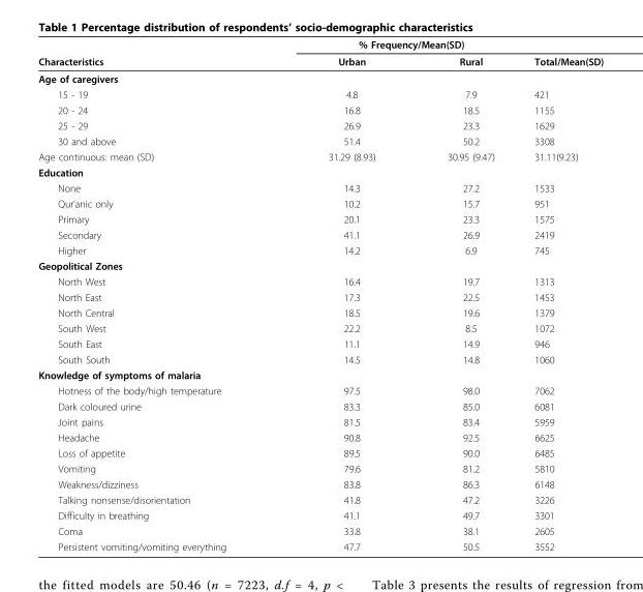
<table><thead><tr><td rowspan="2">Characteristics</td><td colspan="2">% Frequency/Mean(SD)</td><td rowspan="2">Total/Mean(SD)</td></tr><tr><td>Urban</td><td>Rural</td></tr></thead><tbody><tr><td colspan="4">Age of caregivers</td></tr><tr><td>15 - 19</td><td>4.8</td><td>7.9</td><td>421</td></tr><tr><td>20 - 24</td><td>16.8</td><td>18.5</td><td>1155</td></tr><tr><td>25 - 29</td><td>26.9</td><td>23.3</td><td>1629</td></tr><tr><td>30 and above</td><td>51.4</td><td>50.2</td><td>3308</td></tr><tr><td>Age continuous: mean (SD)</td><td>31.29 (8.93)</td><td>30.95 (9.47)</td><td>31.11(9.23)</td></tr><tr><td colspan="4">Education</td></tr><tr><td>None</td><td>14.3</td><td>27.2</td><td>1533</td></tr><tr><td>Qur’anic only</td><td>10.2</td><td>15.7</td><td>951</td></tr><tr><td>Primary</td><td>20.1</td><td>23.3</td><td>1575</td></tr><tr><td>Secondary</td><td>41.1</td><td>26.9</td><td>2419</td></tr><tr><td>Higher</td><td>14.2</td><td>6.9</td><td>745</td></tr><tr><td colspan="4">Geopolitical Zones</td></tr><tr><td>North West</td><td>16.4</td><td>19.7</td><td>1313</td></tr><tr><td>North East</td><td>17.3</td><td>22.5</td><td>1453</td></tr><tr><td>North Central</td><td>18.5</td><td>19.6</td><td>1379</td></tr><tr><td>South West</td><td>22.2</td><td>8.5</td><td>1072</td></tr><tr><td>South East</td><td>11.1</td><td>14.9</td><td>946</td></tr><tr><td>South South</td><td>14.5</td><td>14.8</td><td>1060</td></tr><tr><td colspan="4">Knowledge of symptoms of malaria</td></tr><tr><td>Hotness of the body/high temperature</td><td>97.5</td><td>98.0</td><td>7062</td></tr><tr><td>Dark coloured urine</td><td>83.3</td><td>85.0</td><td>6081</td></tr><tr><td>Joint pains</td><td>81.5</td><td>83.4</td><td>5959</td></tr><tr><td>Headache</td><td>90.8</td><td>92.5</td><td>6625</td></tr><tr><td>Loss of appetite</td><td>89.5</td><td>90.0</td><td>6485</td></tr><tr><td>Vomiting</td><td>79.6</td><td>81.2</td><td>5810</td></tr><tr><td>Weakness/dizziness</td><td>83.8</td><td>86.3</td><td>6148</td></tr><tr><td>Talking nonsense/disorientation</td><td>41.8</td><td>47.2</td><td>3226</td></tr><tr><td>Difficulty in breathing</td><td>41.1</td><td>49.7</td><td>3301</td></tr><tr><td>Coma</td><td>33.8</td><td>38.1</td><td>2605</td></tr><tr><td>Persistent vomiting/vomiting everything</td><td>47.7</td><td>50.5</td><td>3552</td></tr></tbody></table>